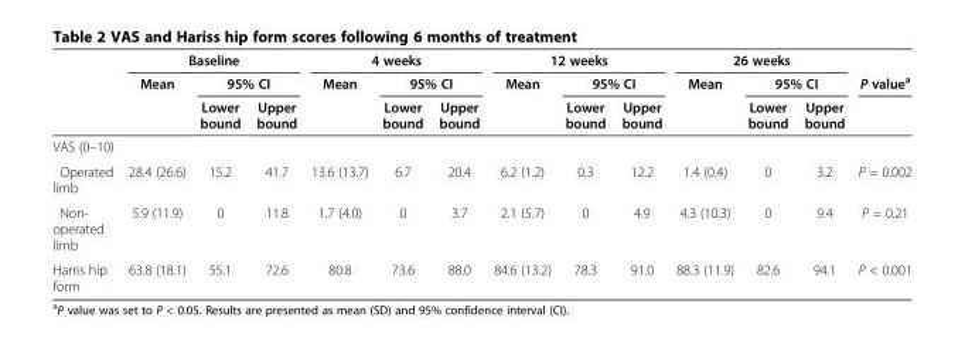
<table><thead><tr><td rowspan="3"></td><td colspan="3">Baseline</td><td colspan="3">4 weeks</td><td colspan="3">12 weeks</td><td colspan="3">26 weeks</td><td rowspan="3">P value<sup>a</sup></td></tr><tr><td rowspan="2">Mean</td><td colspan="2">95% CI</td><td rowspan="2">Mean</td><td colspan="2">95% CI</td><td rowspan="2">Mean</td><td colspan="2">95% CI</td><td rowspan="2">Mean</td><td colspan="2">95% CI</td></tr><tr><td>Lower bound</td><td>Upper bound</td><td>Lower bound</td><td>Upper bound</td><td>Lower bound</td><td>Upper bound</td><td>Lower bound</td><td>Upper bound</td></tr></thead><tbody><tr><td colspan="14">VAS (0–10)</td></tr><tr><td>Operated limb</td><td>28.4 (26.6)</td><td>15.2</td><td>41.7</td><td>13.6 (13.7)</td><td>6.7</td><td>20.4</td><td>6.2 (1.2)</td><td>0.3</td><td>12.2</td><td>1.4 (0.4)</td><td>0</td><td>3.2</td><td>P = 0.002</td></tr><tr><td>Non- operated limb</td><td>5.9 (11.9)</td><td>0</td><td>11.8</td><td>1.7 (4.0)</td><td>0</td><td>3.7</td><td>2.1 (5.7)</td><td>0</td><td>4.9</td><td>4.3 (10.3)</td><td>0</td><td>9.4</td><td>P = 0.21</td></tr><tr><td>Harris hip form</td><td>63.8 (18.1)</td><td>55.1</td><td>72.6</td><td>80.8</td><td>73.6</td><td>88.0</td><td>84.6 (13.2)</td><td>78.3</td><td>91.0</td><td>88.3 (11.9)</td><td>82.6</td><td>94.1</td><td>P &lt; 0.001</td></tr></tbody></table>